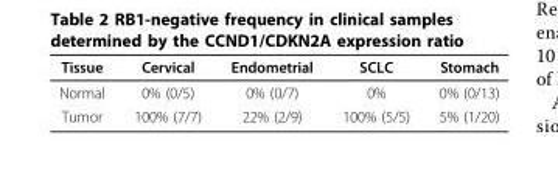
<table><thead><tr><td>Tissue</td><td>Cervical</td><td>Endometrial</td><td>SCLC</td><td>Stomach</td></tr></thead><tbody><tr><td>Normal</td><td>0% (0/5)</td><td>0% (0/7)</td><td>0%</td><td>0% (0/13)</td></tr><tr><td>Tumor</td><td>100% (7/7)</td><td>22% (2/9)</td><td>100% (5/5)</td><td>5% (1/20)</td></tr></tbody></table>